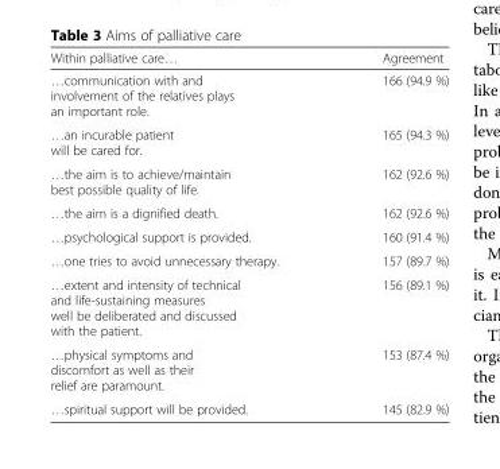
<table><thead><tr><td>Within palliative care…</td><td>Agreement</td></tr></thead><tbody><tr><td>…communication with and involvement of the relatives plays an important role.</td><td>166 (94.9 %)</td></tr><tr><td>…an incurable patient will be cared for.</td><td>165 (94.3 %)</td></tr><tr><td>…the aim is to achieve/maintain best possible quality of life.</td><td>162 (92.6 %)</td></tr><tr><td>…the aim is a dignified death.</td><td>162 (92.6 %)</td></tr><tr><td>…psychological support is provided.</td><td>160 (91.4 %)</td></tr><tr><td>…one tries to avoid unnecessary therapy.</td><td>157 (89.7 %)</td></tr><tr><td>…extent and intensity of technical and life-sustaining measures well be deliberated and discussed with the patient.</td><td>156 (89.1 %)</td></tr><tr><td>…physical symptoms and discomfort as well as their relief are paramount.</td><td>153 (87.4 %)</td></tr><tr><td>…spiritual support will be provided.</td><td>145 (82.9 %)</td></tr></tbody></table>